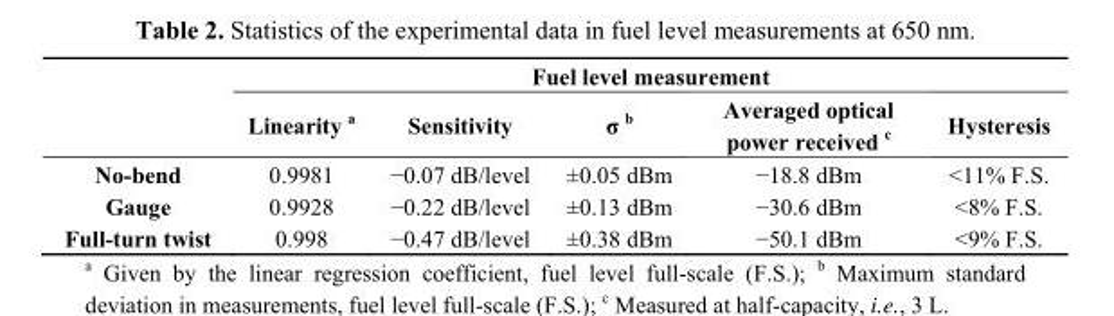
<table><thead><tr><td rowspan="2"></td><td colspan="5">Fuel level measurement</td></tr><tr><td>Linearity <sup>a</sup></td><td>Sensitivity</td><td>σ <sup>b</sup></td><td>Averaged optical power received <sup>c</sup></td><td>Hysteresis</td></tr></thead><tbody><tr><td>No-bend</td><td>0.9981</td><td>−0.07 dB/level</td><td>±0.05 dBm</td><td>−18.8 dBm</td><td>&lt;11% F.S.</td></tr><tr><td>Gauge</td><td>0.9928</td><td>−0.22 dB/level</td><td>±0.13 dBm</td><td>−30.6 dBm</td><td>&lt;8% F.S.</td></tr><tr><td>Full-turn twist</td><td>0.998</td><td>−0.47 dB/level</td><td>±0.38 dBm</td><td>−50.1 dBm</td><td>&lt;9% F.S.</td></tr></tbody></table>